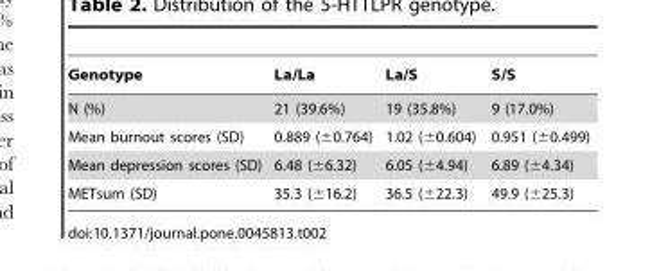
<table><thead><tr><td>Genotype</td><td>La/La</td><td>La/S</td><td>S/S</td></tr></thead><tbody><tr><td>N (%)</td><td>21 (39.6%)</td><td>19 (35.8%)</td><td>9 (17.0%)</td></tr><tr><td>Mean burnout scores (SD)</td><td>0.889 (±0.764)</td><td>1.02 (±0.604)</td><td>0.951 (±0.499)</td></tr><tr><td>Mean depression scores (SD)</td><td>6.48 (±6.32)</td><td>6.05 (±4.94)</td><td>6.89 (±4.34)</td></tr><tr><td>METsum (SD)</td><td>35.3 (±16.2)</td><td>36.5 (±22.3)</td><td>49.9 (±25.3)</td></tr></tbody></table>